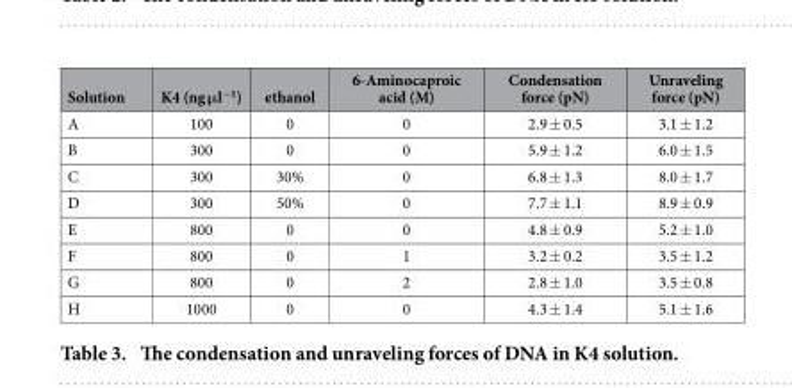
<table><thead><tr><td>Solution</td><td>K4 (ng μl<sup>−1</sup>)</td><td>ethanol</td><td>6-Aminocaproic acid (M)</td><td>Condensation force (pN)</td><td>Unraveling force (pN)</td></tr></thead><tbody><tr><td>A</td><td>100</td><td>0</td><td>0</td><td>2.9 ± 0.5</td><td>3.1 ± 1.2</td></tr><tr><td>B</td><td>300</td><td>0</td><td>0</td><td>5.9 ± 1.2</td><td>6.0 ± 1.5</td></tr><tr><td>C</td><td>300</td><td>30%</td><td>0</td><td>6.8 ± 1.3</td><td>8.0 ± 1.7</td></tr><tr><td>D</td><td>300</td><td>50%</td><td>0</td><td>7.7 ± 1.1</td><td>8.9 ± 0.9</td></tr><tr><td>E</td><td>800</td><td>0</td><td>0</td><td>4.8 ± 0.9</td><td>5.2 ± 1.0</td></tr><tr><td>F</td><td>800</td><td>0</td><td>1</td><td>3.2 ± 0.2</td><td>3.5 ± 1.2</td></tr><tr><td>G</td><td>800</td><td>0</td><td>2</td><td>2.8 ± 1.0</td><td>3.5 ± 0.8</td></tr><tr><td>H</td><td>1000</td><td>0</td><td>0</td><td>4.3 ± 1.4</td><td>5.1 ± 1.6</td></tr></tbody></table>